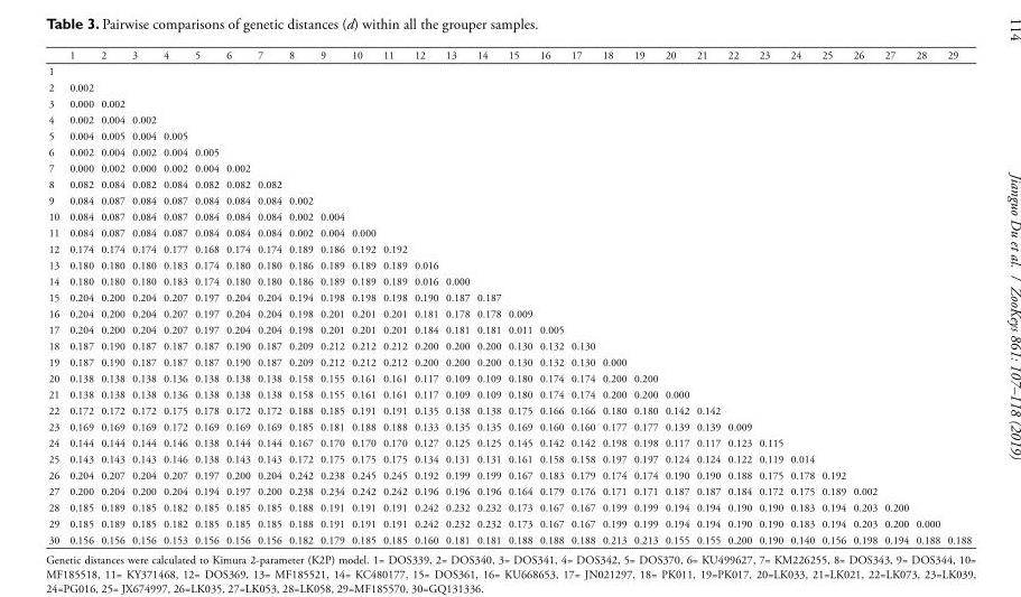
<table><thead><tr><td></td><td>1</td><td>2</td><td>3</td><td>4</td><td>5</td><td>6</td><td>7</td><td>8</td><td>9</td><td>10</td><td>11</td><td>12</td><td>13</td><td>14</td><td>15</td><td>16</td><td>17</td><td>18</td><td>19</td><td>20</td><td>21</td><td>22</td><td>23</td><td>24</td><td>25</td><td>26</td><td>27</td><td>28</td><td>29</td></tr></thead><tbody><tr><td colspan="30">1</td></tr><tr><td>2</td><td>0.002</td><td></td><td></td><td></td><td></td><td></td><td></td><td></td><td></td><td></td><td></td><td></td><td></td><td></td><td></td><td></td><td></td><td></td><td></td><td></td><td></td><td></td><td></td><td></td><td></td><td></td><td></td><td></td><td></td></tr><tr><td>3</td><td>0.000</td><td>0.002</td><td></td><td></td><td></td><td></td><td></td><td></td><td></td><td></td><td></td><td></td><td></td><td></td><td></td><td></td><td></td><td></td><td></td><td></td><td></td><td></td><td></td><td></td><td></td><td></td><td></td><td></td><td></td></tr><tr><td>4</td><td>0.002</td><td>0.004</td><td>0.002</td><td></td><td></td><td></td><td></td><td></td><td></td><td></td><td></td><td></td><td></td><td></td><td></td><td></td><td></td><td></td><td></td><td></td><td></td><td></td><td></td><td></td><td></td><td></td><td></td><td></td><td></td></tr><tr><td>5</td><td>0.004</td><td>0.005</td><td>0.004</td><td>0.005</td><td></td><td></td><td></td><td></td><td></td><td></td><td></td><td></td><td></td><td></td><td></td><td></td><td></td><td></td><td></td><td></td><td></td><td></td><td></td><td></td><td></td><td></td><td></td><td></td><td></td></tr><tr><td>6</td><td>0.002</td><td>0.004</td><td>0.002</td><td>0.004</td><td>0.005</td><td></td><td></td><td></td><td></td><td></td><td></td><td></td><td></td><td></td><td></td><td></td><td></td><td></td><td></td><td></td><td></td><td></td><td></td><td></td><td></td><td></td><td></td><td></td><td></td></tr><tr><td>7</td><td>0.000</td><td>0.002</td><td>0.000</td><td>0.002</td><td>0.004</td><td>0.002</td><td></td><td></td><td></td><td></td><td></td><td></td><td></td><td></td><td></td><td></td><td></td><td></td><td></td><td></td><td></td><td></td><td></td><td></td><td></td><td></td><td></td><td></td><td></td></tr><tr><td>8</td><td>0.082</td><td>0.084</td><td>0.082</td><td>0.084</td><td>0.082</td><td>0.082</td><td>0.082</td><td></td><td></td><td></td><td></td><td></td><td></td><td></td><td></td><td></td><td></td><td></td><td></td><td></td><td></td><td></td><td></td><td></td><td></td><td></td><td></td><td></td><td></td></tr><tr><td>9</td><td>0.084</td><td>0.087</td><td>0.084</td><td>0.087</td><td>0.084</td><td>0.084</td><td>0.084</td><td>0.002</td><td></td><td></td><td></td><td></td><td></td><td></td><td></td><td></td><td></td><td></td><td></td><td></td><td></td><td></td><td></td><td></td><td></td><td></td><td></td><td></td><td></td></tr><tr><td>10</td><td>0.084</td><td>0.087</td><td>0.084</td><td>0.087</td><td>0.084</td><td>0.084</td><td>0.084</td><td>0.002</td><td>0.004</td><td></td><td></td><td></td><td></td><td></td><td></td><td></td><td></td><td></td><td></td><td></td><td></td><td></td><td></td><td></td><td></td><td></td><td></td><td></td><td></td></tr><tr><td>11</td><td>0.084</td><td>0.087</td><td>0.084</td><td>0.087</td><td>0.084</td><td>0.084</td><td>0.084</td><td>0.002</td><td>0.004</td><td>0.000</td><td></td><td></td><td></td><td></td><td></td><td></td><td></td><td></td><td></td><td></td><td></td><td></td><td></td><td></td><td></td><td></td><td></td><td></td><td></td></tr><tr><td>12</td><td>0.174</td><td>0.174</td><td>0.174</td><td>0.177</td><td>0.168</td><td>0.174</td><td>0.174</td><td>0.189</td><td>0.186</td><td>0.192</td><td>0.192</td><td></td><td></td><td></td><td></td><td></td><td></td><td></td><td></td><td></td><td></td><td></td><td></td><td></td><td></td><td></td><td></td><td></td><td></td></tr><tr><td>13</td><td>0.180</td><td>0.180</td><td>0.180</td><td>0.183</td><td>0.174</td><td>0.180</td><td>0.180</td><td>0.186</td><td>0.189</td><td>0.189</td><td>0.189</td><td>0.016</td><td></td><td></td><td></td><td></td><td></td><td></td><td></td><td></td><td></td><td></td><td></td><td></td><td></td><td></td><td></td><td></td><td></td></tr><tr><td>14</td><td>0.180</td><td>0.180</td><td>0.180</td><td>0.183</td><td>0.174</td><td>0.180</td><td>0.180</td><td>0.186</td><td>0.189</td><td>0.189</td><td>0.189</td><td>0.016</td><td>0.000</td><td></td><td></td><td></td><td></td><td></td><td></td><td></td><td></td><td></td><td></td><td></td><td></td><td></td><td></td><td></td><td></td></tr><tr><td>15</td><td>0.204</td><td>0.200</td><td>0.204</td><td>0.207</td><td>0.197</td><td>0.204</td><td>0.204</td><td>0.194</td><td>0.198</td><td>0.198</td><td>0.198</td><td>0.190</td><td>0.187</td><td>0.187</td><td></td><td></td><td></td><td></td><td></td><td></td><td></td><td></td><td></td><td></td><td></td><td></td><td></td><td></td><td></td></tr><tr><td>16</td><td>0.204</td><td>0.200</td><td>0.204</td><td>0.207</td><td>0.197</td><td>0.204</td><td>0.204</td><td>0.198</td><td>0.201</td><td>0.201</td><td>0.201</td><td>0.181</td><td>0.178</td><td>0.178</td><td>0.009</td><td></td><td></td><td></td><td></td><td></td><td></td><td></td><td></td><td></td><td></td><td></td><td></td><td></td><td></td></tr><tr><td>17</td><td>0.204</td><td>0.200</td><td>0.204</td><td>0.207</td><td>0.197</td><td>0.204</td><td>0.204</td><td>0.198</td><td>0.201</td><td>0.201</td><td>0.201</td><td>0.184</td><td>0.181</td><td>0.181</td><td>0.011</td><td>0.005</td><td></td><td></td><td></td><td></td><td></td><td></td><td></td><td></td><td></td><td></td><td></td><td></td><td></td></tr><tr><td>18</td><td>0.187</td><td>0.190</td><td>0.187</td><td>0.187</td><td>0.187</td><td>0.190</td><td>0.187</td><td>0.209</td><td>0.212</td><td>0.212</td><td>0.212</td><td>0.200</td><td>0.200</td><td>0.200</td><td>0.130</td><td>0.132</td><td>0.130</td><td></td><td></td><td></td><td></td><td></td><td></td><td></td><td></td><td></td><td></td><td></td><td></td></tr><tr><td>19</td><td>0.187</td><td>0.190</td><td>0.187</td><td>0.187</td><td>0.187</td><td>0.190</td><td>0.187</td><td>0.209</td><td>0.212</td><td>0.212</td><td>0.212</td><td>0.200</td><td>0.200</td><td>0.200</td><td>0.130</td><td>0.132</td><td>0.130</td><td>0.000</td><td></td><td></td><td></td><td></td><td></td><td></td><td></td><td></td><td></td><td></td><td></td></tr><tr><td>20</td><td>0.138</td><td>0.138</td><td>0.138</td><td>0.136</td><td>0.138</td><td>0.138</td><td>0.138</td><td>0.158</td><td>0.155</td><td>0.161</td><td>0.161</td><td>0.117</td><td>0.109</td><td>0.109</td><td>0.180</td><td>0.174</td><td>0.174</td><td>0.200</td><td>0.200</td><td></td><td></td><td></td><td></td><td></td><td></td><td></td><td></td><td></td><td></td></tr><tr><td>21</td><td>0.138</td><td>0.138</td><td>0.138</td><td>0.136</td><td>0.138</td><td>0.138</td><td>0.138</td><td>0.158</td><td>0.155</td><td>0.161</td><td>0.161</td><td>0.117</td><td>0.109</td><td>0.109</td><td>0.180</td><td>0.174</td><td>0.174</td><td>0.200</td><td>0.200</td><td>0.000</td><td></td><td></td><td></td><td></td><td></td><td></td><td></td><td></td><td></td></tr><tr><td>22</td><td>0.172</td><td>0.172</td><td>0.172</td><td>0.175</td><td>0.178</td><td>0.172</td><td>0.172</td><td>0.188</td><td>0.185</td><td>0.191</td><td>0.191</td><td>0.135</td><td>0.138</td><td>0.138</td><td>0.175</td><td>0.166</td><td>0.166</td><td>0.180</td><td>0.180</td><td>0.142</td><td>0.142</td><td></td><td></td><td></td><td></td><td></td><td></td><td></td><td></td></tr><tr><td>23</td><td>0.169</td><td>0.169</td><td>0.169</td><td>0.172</td><td>0.169</td><td>0.169</td><td>0.169</td><td>0.185</td><td>0.181</td><td>0.188</td><td>0.188</td><td>0.133</td><td>0.135</td><td>0.135</td><td>0.169</td><td>0.160</td><td>0.160</td><td>0.177</td><td>0.177</td><td>0.139</td><td>0.139</td><td>0.009</td><td></td><td></td><td></td><td></td><td></td><td></td><td></td></tr><tr><td>24</td><td>0.144</td><td>0.144</td><td>0.144</td><td>0.146</td><td>0.138</td><td>0.144</td><td>0.144</td><td>0.167</td><td>0.170</td><td>0.170</td><td>0.170</td><td>0.127</td><td>0.125</td><td>0.125</td><td>0.145</td><td>0.142</td><td>0.142</td><td>0.198</td><td>0.198</td><td>0.117</td><td>0.117</td><td>0.123</td><td>0.115</td><td></td><td></td><td></td><td></td><td></td><td></td></tr><tr><td>25</td><td>0.143</td><td>0.143</td><td>0.143</td><td>0.146</td><td>0.138</td><td>0.143</td><td>0.143</td><td>0.172</td><td>0.175</td><td>0.175</td><td>0.175</td><td>0.134</td><td>0.131</td><td>0.131</td><td>0.161</td><td>0.158</td><td>0.158</td><td>0.197</td><td>0.197</td><td>0.124</td><td>0.124</td><td>0.122</td><td>0.119</td><td>0.014</td><td></td><td></td><td></td><td></td><td></td></tr><tr><td>26</td><td>0.204</td><td>0.207</td><td>0.204</td><td>0.207</td><td>0.197</td><td>0.200</td><td>0.204</td><td>0.242</td><td>0.238</td><td>0.245</td><td>0.245</td><td>0.192</td><td>0.199</td><td>0.199</td><td>0.167</td><td>0.183</td><td>0.179</td><td>0.174</td><td>0.174</td><td>0.190</td><td>0.190</td><td>0.188</td><td>0.175</td><td>0.178</td><td>0.192</td><td></td><td></td><td></td><td></td></tr><tr><td>27</td><td>0.200</td><td>0.204</td><td>0.200</td><td>0.204</td><td>0.194</td><td>0.197</td><td>0.200</td><td>0.238</td><td>0.234</td><td>0.242</td><td>0.242</td><td>0.196</td><td>0.196</td><td>0.196</td><td>0.164</td><td>0.179</td><td>0.176</td><td>0.171</td><td>0.171</td><td>0.187</td><td>0.187</td><td>0.184</td><td>0.172</td><td>0.175</td><td>0.189</td><td>0.002</td><td></td><td></td><td></td></tr><tr><td>28</td><td>0.185</td><td>0.189</td><td>0.185</td><td>0.182</td><td>0.185</td><td>0.185</td><td>0.185</td><td>0.188</td><td>0.191</td><td>0.191</td><td>0.191</td><td>0.242</td><td>0.232</td><td>0.232</td><td>0.173</td><td>0.167</td><td>0.167</td><td>0.199</td><td>0.199</td><td>0.194</td><td>0.194</td><td>0.190</td><td>0.190</td><td>0.183</td><td>0.194</td><td>0.203</td><td>0.200</td><td></td><td></td></tr><tr><td>29</td><td>0.185</td><td>0.189</td><td>0.185</td><td>0.182</td><td>0.185</td><td>0.185</td><td>0.185</td><td>0.188</td><td>0.191</td><td>0.191</td><td>0.191</td><td>0.242</td><td>0.232</td><td>0.232</td><td>0.173</td><td>0.167</td><td>0.167</td><td>0.199</td><td>0.199</td><td>0.194</td><td>0.194</td><td>0.190</td><td>0.190</td><td>0.183</td><td>0.194</td><td>0.203</td><td>0.200</td><td>0.000</td><td></td></tr><tr><td>30</td><td>0.156</td><td>0.156</td><td>0.156</td><td>0.153</td><td>0.156</td><td>0.156</td><td>0.156</td><td>0.182</td><td>0.179</td><td>0.185</td><td>0.185</td><td>0.160</td><td>0.181</td><td>0.181</td><td>0.188</td><td>0.188</td><td>0.188</td><td>0.213</td><td>0.213</td><td>0.155</td><td>0.155</td><td>0.200</td><td>0.190</td><td>0.140</td><td>0.156</td><td>0.198</td><td>0.194</td><td>0.188</td><td>0.188</td></tr></tbody></table>